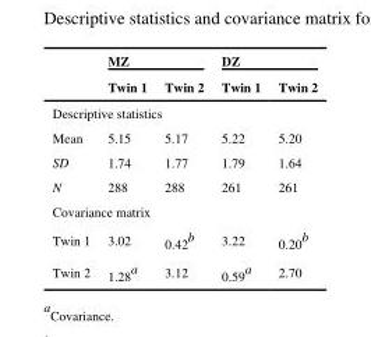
<table><thead><tr><td rowspan="2"></td><td colspan="2">MZ</td><td colspan="2">DZ</td></tr><tr><td>Twin 1</td><td>Twin 2</td><td>Twin 1</td><td>Twin 2</td></tr></thead><tbody><tr><td colspan="5">Descriptive statistics</td></tr><tr><td>Mean</td><td>5.15</td><td>5.17</td><td>5.22</td><td>5.20</td></tr><tr><td>SD</td><td>1.74</td><td>1.77</td><td>1.79</td><td>1.64</td></tr><tr><td>N</td><td>288</td><td>288</td><td>261</td><td>261</td></tr><tr><td colspan="5">Covariance matrix</td></tr><tr><td>Twin 1</td><td>3.02</td><td>0.42<sup>b</sup></td><td>3.22</td><td>0.20<sup>b</sup></td></tr><tr><td>Twin 2</td><td>1.28<sup>a</sup></td><td>3.12</td><td>0.59<sup>a</sup></td><td>2.70</td></tr></tbody></table>